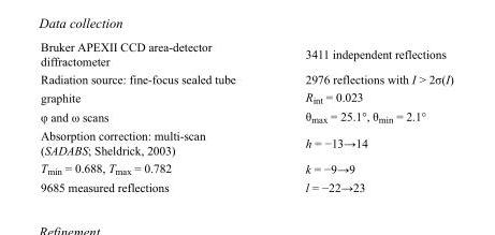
<table><tbody><tr><td>Bruker APEXII CCD area-detector diffractometer</td><td>3411 independent reflections</td></tr><tr><td>Radiation source: fine-focus sealed tube</td><td>2976 reflections with I &gt; 2σ(I)</td></tr><tr><td>graphite</td><td>R<sub>int</sub> = 0.023</td></tr><tr><td>φ and ω scans</td><td>θ<sub>max</sub> = 25.1°, θ<sub>min</sub> = 2.1°</td></tr><tr><td>Absorption correction: multi-scan (SADABS; Sheldrick, 2003)</td><td>h = −13→14</td></tr><tr><td>T<sub>min</sub> = 0.688, T<sub>max</sub> = 0.782</td><td>k = −9→9</td></tr><tr><td>9685 measured reflections</td><td>l = −22→23</td></tr></tbody></table>